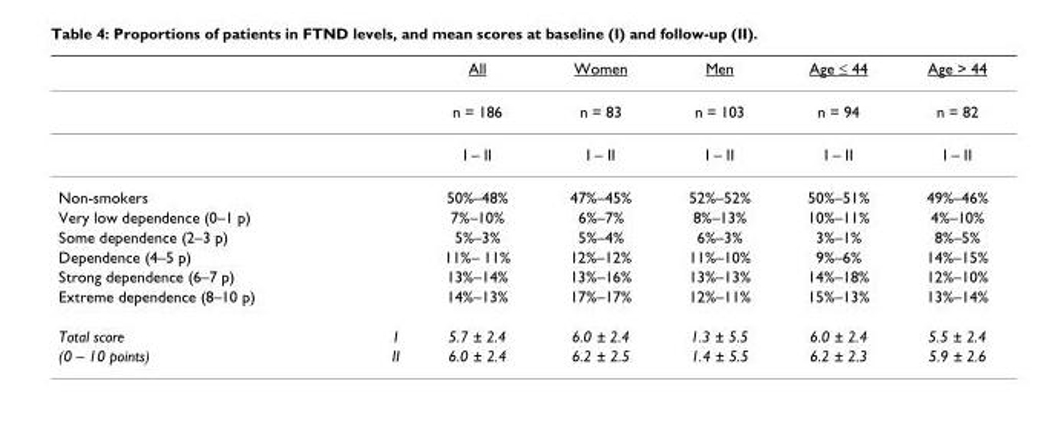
<table><thead><tr><td></td><td></td><td>All</td><td>Women</td><td>Men</td><td>Age ≤ 44</td><td>Age &gt; 44</td></tr></thead><tbody><tr><td></td><td></td><td>n = 186</td><td>n = 83</td><td>n = 103</td><td>n = 94</td><td>n = 82</td></tr><tr><td></td><td></td><td>I – II</td><td>I – II</td><td>I – II</td><td>I – II</td><td>I – II</td></tr><tr><td>Non-smokers</td><td></td><td>50%–48%</td><td>47%–45%</td><td>52%–52%</td><td>50%–51%</td><td>49%–46%</td></tr><tr><td>Very low dependence (0–1 p)</td><td></td><td>7%–10%</td><td>6%–7%</td><td>8%–13%</td><td>10%–11%</td><td>4%–10%</td></tr><tr><td>Some dependence (2–3 p)</td><td></td><td>5%–3%</td><td>5%–4%</td><td>6%–3%</td><td>3%–1%</td><td>8%–5%</td></tr><tr><td>Dependence (4–5 p)</td><td></td><td>11%– 11%</td><td>12%–12%</td><td>11%–10%</td><td>9%–6%</td><td>14%–15%</td></tr><tr><td>Strong dependence (6–7 p)</td><td></td><td>13%–14%</td><td>13%–16%</td><td>13%–13%</td><td>14%–18%</td><td>12%–10%</td></tr><tr><td>Extreme dependence (8–10 p)</td><td></td><td>14%–13%</td><td>17%–17%</td><td>12%–11%</td><td>15%–13%</td><td>13%–14%</td></tr><tr><td>Total score</td><td>I</td><td>5.7 ± 2.4</td><td>6.0 ± 2.4</td><td>1.3 ± 5.5</td><td>6.0 ± 2.4</td><td>5.5 ± 2.4</td></tr><tr><td>(0 – 10 points)</td><td>II</td><td>6.0 ± 2.4</td><td>6.2 ± 2.5</td><td>1.4 ± 5.5</td><td>6.2 ± 2.3</td><td>5.9 ± 2.6</td></tr></tbody></table>